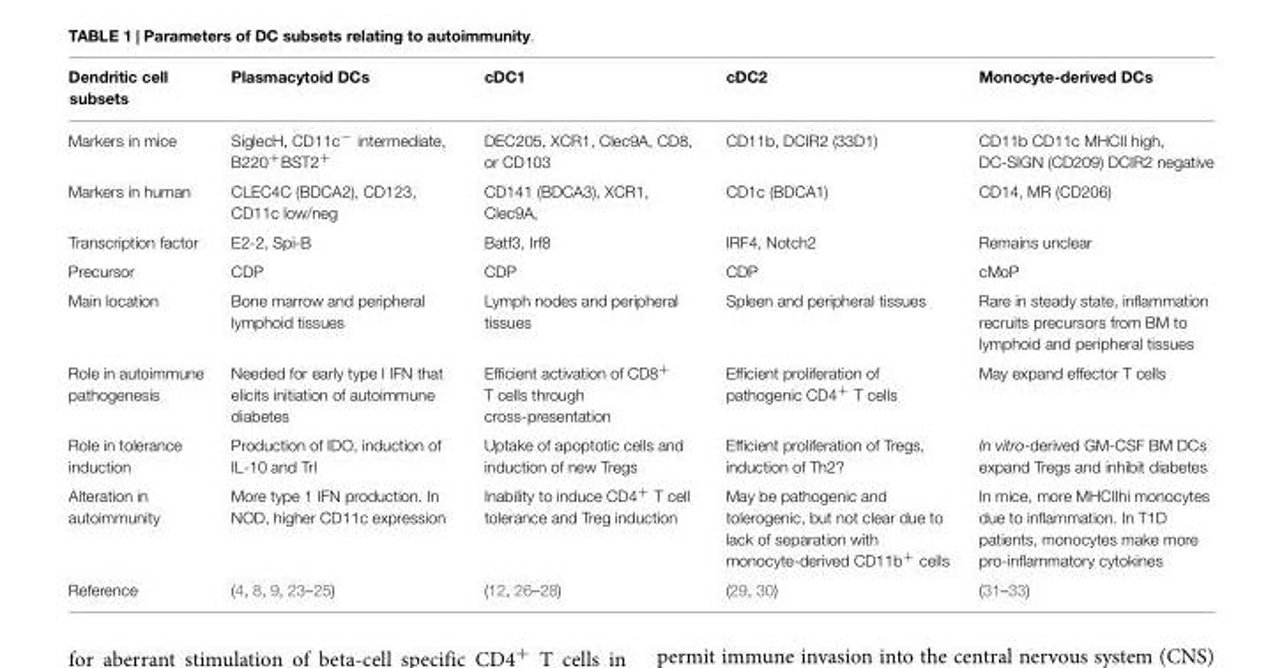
<table><thead><tr><td>Dendritic cell subsets</td><td>Plasmacytoid DCs</td><td>cDC1</td><td>cDC2</td><td>Monocyte-derived DCs</td></tr></thead><tbody><tr><td>Markers in mice</td><td>SiglecH, CD11c<sup>−</sup> intermediate, B220<sup>+</sup>BST2<sup>+</sup></td><td>DEC205, XCR1, Clec9A, CD8, or CD103</td><td>CD11b, DCIR2 (33D1)</td><td>CD11b CD11c MHCII high, DC-SIGN (CD209) DCIR2 negative</td></tr><tr><td>Markers in human</td><td>CLEC4C (BDCA2), CD123, CD11c low/neg</td><td>CD141 (BDCA3), XCR1, Clec9A,</td><td>CD1c (BDCA1)</td><td>CD14, MR (CD206)</td></tr><tr><td>Transcription factor</td><td>E2-2, Spi-B</td><td>Batf3, Irf8</td><td>IRF4, Notch2</td><td>Remains unclear</td></tr><tr><td>Precursor</td><td>CDP</td><td>CDP</td><td>CDP</td><td>cMoP</td></tr><tr><td>Main location</td><td>Bone marrow and peripheral lymphoid tissues</td><td>Lymph nodes and peripheral tissues</td><td>Spleen and peripheral tissues</td><td>Rare in steady state, inflammation recruits precursors from BM to lymphoid and peripheral tissues</td></tr><tr><td>Role in autoimmune pathogenesis</td><td>Needed for early type I IFN that elicits initiation of autoimmune diabetes</td><td>Efficient activation of CD8<sup>+</sup> T cells through cross-presentation</td><td>Efficient proliferation of pathogenic CD4<sup>+</sup> T cells</td><td>May expand effector T cells</td></tr><tr><td>Role in tolerance induction</td><td>Production of IDO, induction of IL-10 and Trl</td><td>Uptake of apoptotic cells and induction of new Tregs</td><td>Efficient proliferation of Tregs, induction of Th2?</td><td>In vitro-derived GM-CSF BM DCs expand Tregs and inhibit diabetes</td></tr><tr><td>Alteration in autoimmunity</td><td>More type 1 IFN production. In NOD, higher CD11c expression</td><td>Inability to induce CD4<sup>+</sup> T cell tolerance and Treg induction</td><td>May be pathogenic and tolerogenic, but not clear due to lack of separation with monocyte-derived CD11b<sup>+</sup> cells</td><td>In mice, more MHCIIhi monocytes due to inflammation. In T1D patients, monocytes make more pro-inflammatory cytokines</td></tr><tr><td>Reference</td><td>(4, 8, 9, 23–25)</td><td>(12, 26–28)</td><td>(29, 30)</td><td>(31–33)</td></tr></tbody></table>